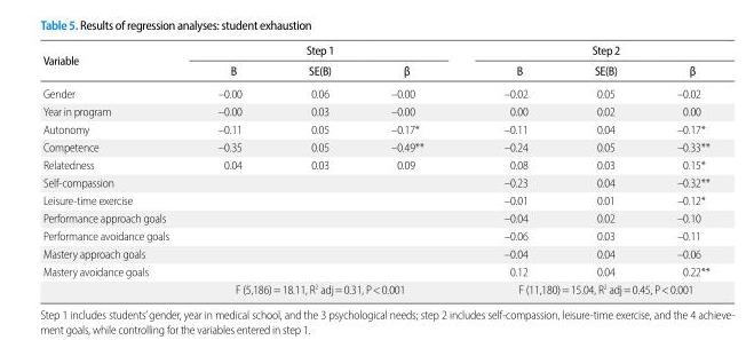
<table><thead><tr><td rowspan="2">Variable</td><td colspan="3">Step 1</td><td colspan="3">Step 2</td></tr><tr><td>B</td><td>SE(B)</td><td>β</td><td>B</td><td>SE(B)</td><td>β</td></tr></thead><tbody><tr><td>Gender</td><td>–0.00</td><td>0.06</td><td>–0.00</td><td>–0.02</td><td>0.05</td><td>–0.02</td></tr><tr><td>Year in program</td><td>–0.00</td><td>0.03</td><td>–0.00</td><td>0.00</td><td>0.02</td><td>0.00</td></tr><tr><td>Autonomy</td><td>–0.11</td><td>0.05</td><td>–0.17*</td><td>–0.11</td><td>0.04</td><td>–0.17*</td></tr><tr><td>Competence</td><td>–0.35</td><td>0.05</td><td>–0.49**</td><td>–0.24</td><td>0.05</td><td>–0.33**</td></tr><tr><td>Relatedness</td><td>0.04</td><td>0.03</td><td>0.09</td><td>0.08</td><td>0.03</td><td>0.15*</td></tr><tr><td>Self-compassion</td><td></td><td></td><td></td><td>–0.23</td><td>0.04</td><td>–0.32**</td></tr><tr><td>Leisure-time exercise</td><td></td><td></td><td></td><td>–0.01</td><td>0.01</td><td>–0.12*</td></tr><tr><td>Performance approach goals</td><td></td><td></td><td></td><td>–0.04</td><td>0.02</td><td>–0.10</td></tr><tr><td>Performance avoidance goals</td><td></td><td></td><td></td><td>–0.06</td><td>0.03</td><td>–0.11</td></tr><tr><td>Mastery approach goals</td><td></td><td></td><td></td><td>–0.04</td><td>0.04</td><td>–0.06</td></tr><tr><td rowspan="2">Mastery avoidance goals</td><td></td><td></td><td></td><td>0.12</td><td>0.04</td><td>0.22**</td></tr><tr><td colspan="3">F (5,186)=18.11, R<sup>2</sup> adj=0.31, P&lt;0.001</td><td colspan="3">F (11,180)=15.04, R<sup>2</sup> adj=0.45, P&lt;0.001</td></tr></tbody></table>